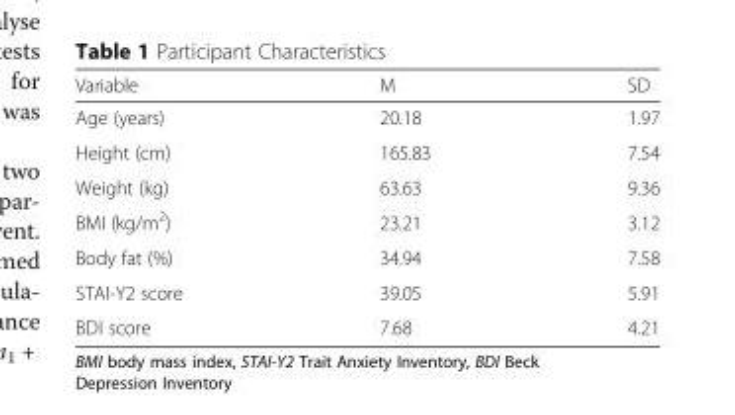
<table><thead><tr><td>Variable</td><td>M</td><td>SD</td></tr></thead><tbody><tr><td>Age (years)</td><td>20.18</td><td>1.97</td></tr><tr><td>Height (cm)</td><td>165.83</td><td>7.54</td></tr><tr><td>Weight (kg)</td><td>63.63</td><td>9.36</td></tr><tr><td>BMI (kg/m<sup>2</sup>)</td><td>23.21</td><td>3.12</td></tr><tr><td>Body fat (%)</td><td>34.94</td><td>7.58</td></tr><tr><td>STAI-Y2 score</td><td>39.05</td><td>5.91</td></tr><tr><td>BDI score</td><td>7.68</td><td>4.21</td></tr></tbody></table>